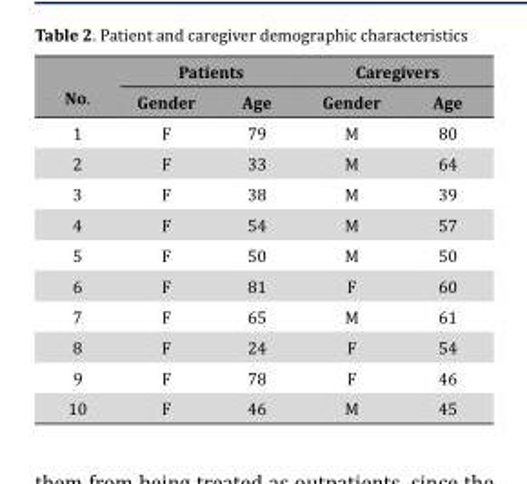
<table><thead><tr><td rowspan="2">No.</td><td colspan="2">Patients</td><td colspan="2">Caregivers</td></tr><tr><td>Gender</td><td>Age</td><td>Gender</td><td>Age</td></tr></thead><tbody><tr><td>1</td><td>F</td><td>79</td><td>M</td><td>80</td></tr><tr><td>2</td><td>F</td><td>33</td><td>M</td><td>64</td></tr><tr><td>3</td><td>F</td><td>38</td><td>M</td><td>39</td></tr><tr><td>4</td><td>F</td><td>54</td><td>M</td><td>57</td></tr><tr><td>5</td><td>F</td><td>50</td><td>M</td><td>50</td></tr><tr><td>6</td><td>F</td><td>81</td><td>F</td><td>60</td></tr><tr><td>7</td><td>F</td><td>65</td><td>M</td><td>61</td></tr><tr><td>8</td><td>F</td><td>24</td><td>F</td><td>54</td></tr><tr><td>9</td><td>F</td><td>78</td><td>F</td><td>46</td></tr><tr><td>10</td><td>F</td><td>46</td><td>M</td><td>45</td></tr></tbody></table>